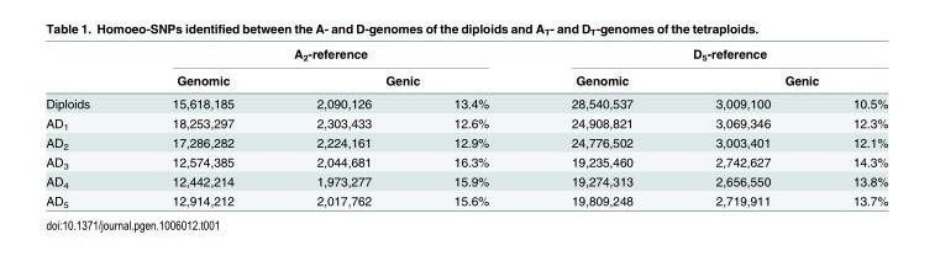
<table><thead><tr><td rowspan="3">Diploids</td><td colspan="3">A<sub>2</sub>-reference</td><td colspan="3">D<sub>5</sub>-reference</td></tr><tr><td rowspan="2">Genomic 15,618,185</td><td colspan="2">Genic</td><td rowspan="2">Genomic 28,540,537</td><td colspan="2">Genic</td></tr><tr><td>2,090,126</td><td>13.4%</td><td>3,009,100</td><td>10.5%</td></tr></thead><tbody><tr><td>AD<sub>1</sub></td><td>18,253,297</td><td>2,303,433</td><td>12.6%</td><td>24,908,821</td><td>3,069,346</td><td>12.3%</td></tr><tr><td>AD<sub>2</sub></td><td>17,286,282</td><td>2,224,161</td><td>12.9%</td><td>24,776,502</td><td>3,003,401</td><td>12.1%</td></tr><tr><td>AD<sub>3</sub></td><td>12,574,385</td><td>2,044,681</td><td>16.3%</td><td>19,235,460</td><td>2,742,627</td><td>14.3%</td></tr><tr><td>AD<sub>4</sub></td><td>12,442,214</td><td>1,973,277</td><td>15.9%</td><td>19,274,313</td><td>2,656,550</td><td>13.8%</td></tr><tr><td>AD<sub>5</sub></td><td>12,914,212</td><td>2,017,762</td><td>15.6%</td><td>19,809,248</td><td>2,719,911</td><td>13.7%</td></tr></tbody></table>